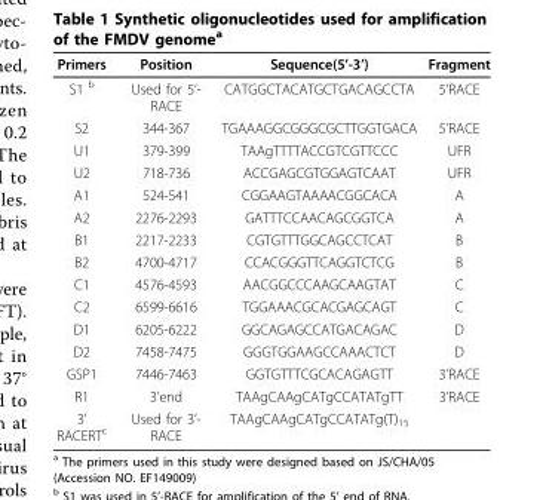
<table><thead><tr><td>Primers</td><td>Position</td><td>Sequence(5’-3’)</td><td>Fragment</td></tr></thead><tbody><tr><td>S1 <sup>b</sup></td><td>Used for 5’- RACE</td><td>CATGGCTACATGCTGACAGCCTA</td><td>5’RACE</td></tr><tr><td>S2</td><td>344-367</td><td>TGAAAGGCGGGCGCTTGGTGACA</td><td>5’RACE</td></tr><tr><td>U1</td><td>379-399</td><td>TAAgTTTTACCGTCGTTCCC</td><td>UFR</td></tr><tr><td>U2</td><td>718-736</td><td>ACCGAGCGTGGAGTCAAT</td><td>UFR</td></tr><tr><td>A1</td><td>524-541</td><td>CGGAAGTAAAACGGCACA</td><td>A</td></tr><tr><td>A2</td><td>2276-2293</td><td>GATTTCCAACAGCGGTCA</td><td>A</td></tr><tr><td>B1</td><td>2217-2233</td><td>CGTGTTTGGCAGCCTCAT</td><td>B</td></tr><tr><td>B2</td><td>4700-4717</td><td>CCACGGGTTCAGGTCTCG</td><td>B</td></tr><tr><td>C1</td><td>4576-4593</td><td>AACGGCCCAAGCAAGTAT</td><td>C</td></tr><tr><td>C2</td><td>6599-6616</td><td>TGGAAACGCACGAGCAGT</td><td>C</td></tr><tr><td>D1</td><td>6205-6222</td><td>GGCAGAGCCATGACAGAC</td><td>D</td></tr><tr><td>D2</td><td>7458-7475</td><td>GGGTGGAAGCCAAACTCT</td><td>D</td></tr><tr><td>GSP1</td><td>7446-7463</td><td>GGTGTTTCGCACAGAGTT</td><td>3’RACE</td></tr><tr><td>R1</td><td>3’end</td><td>TAAgCAAgCATgCCATATgTT</td><td>3’RACE</td></tr><tr><td>3’ RACERT<sup>c</sup></td><td>Used for 3’- RACE</td><td>TAAgCAAgCATgCCATATg(T)<sub>15</sub></td><td></td></tr></tbody></table>